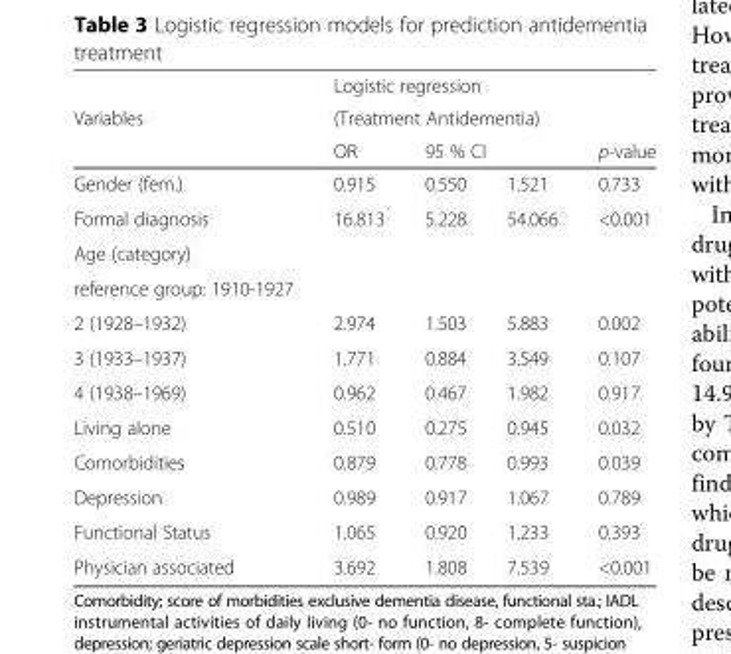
<table><thead><tr><td rowspan="4">Variables Gender (fem.)</td><td rowspan="2" colspan="4">Logistic regression (Treatment Antidementia)</td></tr><tr></tr><tr><td rowspan="2">OR 0.915</td><td colspan="2">95 % CI</td><td rowspan="2">p-value 0.733</td></tr><tr><td>0.550</td><td>1.521</td></tr></thead><tbody><tr><td>Formal diagnosis</td><td>16.813</td><td>5.228</td><td>54.066</td><td>&lt;0.001</td></tr><tr><td>Age (category)</td><td rowspan="2"></td><td rowspan="2"></td><td rowspan="2"></td><td rowspan="2"></td></tr><tr><td>reference group: 1910-1927</td></tr><tr><td>2 (1928–1932)</td><td>2.974</td><td>1.503</td><td>5.883</td><td>0.002</td></tr><tr><td>3 (1933–1937)</td><td>1.771</td><td>0.884</td><td>3.549</td><td>0.107</td></tr><tr><td>4 (1938–1969)</td><td>0.962</td><td>0.467</td><td>1.982</td><td>0.917</td></tr><tr><td>Living alone</td><td>0.510</td><td>0.275</td><td>0.945</td><td>0.032</td></tr><tr><td>Comorbidities</td><td>0.879</td><td>0.778</td><td>0.993</td><td>0.039</td></tr><tr><td>Depression</td><td>0.989</td><td>0.917</td><td>1.067</td><td>0.789</td></tr><tr><td>Functional Status</td><td>1.065</td><td>0.920</td><td>1.233</td><td>0.393</td></tr><tr><td>Physician associated</td><td>3.692</td><td>1.808</td><td>7.539</td><td>&lt;0.001</td></tr></tbody></table>